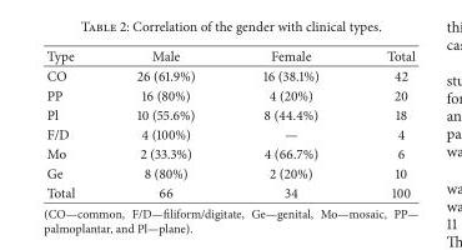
<table><thead><tr><td>Type</td><td>Male</td><td>Female</td><td>Total</td></tr></thead><tbody><tr><td>CO</td><td>26 (61.9%)</td><td>16 (38.1%)</td><td>42</td></tr><tr><td>PP</td><td>16 (80%)</td><td>4 (20%)</td><td>20</td></tr><tr><td>Pl</td><td>10 (55.6%)</td><td>8 (44.4%)</td><td>18</td></tr><tr><td>F/D</td><td>4 (100%)</td><td>—</td><td>4</td></tr><tr><td>Mo</td><td>2 (33.3%)</td><td>4 (66.7%)</td><td>6</td></tr><tr><td>Ge</td><td>8 (80%)</td><td>2 (20%)</td><td>10</td></tr><tr><td>Total</td><td>66</td><td>34</td><td>100</td></tr></tbody></table>